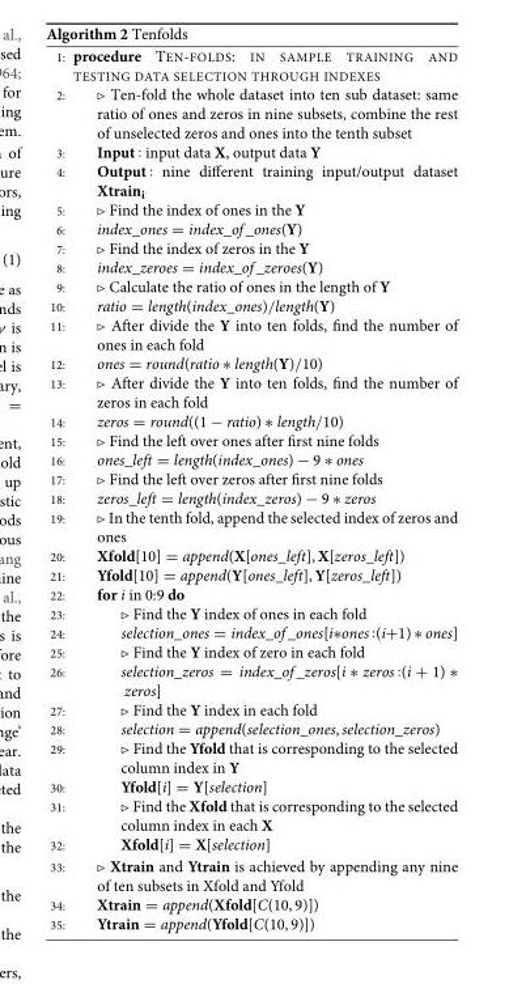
<table><tbody><tr><td>1:</td><td>procedure TEN-FOLDS: IN SAMPLE TRAINING AND TESTING DATA SELECTION THROUGH INDEXES</td></tr><tr><td>2:</td><td>⊲ Ten-fold the whole dataset into ten sub dataset: same ratio of ones and zeros in nine subsets, combine the rest of unselected zeros and ones into the tenth subset</td></tr><tr><td>3:</td><td>Input : input data X, output data Y</td></tr><tr><td>4:</td><td>Output : nine different training input/output dataset Xtrain<sub>i</sub></td></tr><tr><td>5:</td><td>⊲ Find the index of ones in the Y</td></tr><tr><td>6:</td><td>index_ones = index_of _ones(Y)</td></tr><tr><td>7:</td><td>⊲ Find the index of zeros in the Y</td></tr><tr><td>8:</td><td>index_zeroes = index_of _zeroes(Y)</td></tr><tr><td>9:</td><td>⊲ Calculate the ratio of ones in the length of Y</td></tr><tr><td>10:</td><td>ratio = length(index_ones)/length(Y)</td></tr><tr><td>11:</td><td>⊲ After divide the Y into ten folds, find the number of ones in each fold</td></tr><tr><td>12:</td><td>ones = round(ratio ∗ length(Y)/10)</td></tr><tr><td>13:</td><td>⊲ After divide the Y into ten folds, find the number of zeros in each fold</td></tr><tr><td>14:</td><td>zeros = round((1 − ratio) ∗ length/10)</td></tr><tr><td>15:</td><td>⊲ Find the left over ones after first nine folds</td></tr><tr><td>16:</td><td>ones_left = length(index_ones) − 9 ∗ ones</td></tr><tr><td>17:</td><td>⊲ Find the left over zeros after first nine folds</td></tr><tr><td>18:</td><td>zeros_left = length(index_zeros) − 9 ∗ zeros</td></tr><tr><td>19:</td><td>⊲ In the tenth fold, append the selected index of zeros and ones</td></tr><tr><td>20:</td><td>Xfold[10] = append(X[ones_left], X[zeros_left])</td></tr><tr><td>21:</td><td>Yfold[10] = append(Y[ones_left], Y[zeros_left])</td></tr><tr><td>22:</td><td>for i in 0:9 do</td></tr><tr><td>23:</td><td>⊲ Find the Y index of ones in each fold</td></tr><tr><td>24:</td><td>selection_ones = index_of _ones[i∗ones :(i+1) ∗ ones]</td></tr><tr><td>25:</td><td>⊲ Find the Y index of zero in each fold</td></tr><tr><td>26:</td><td>selection_zeros = index_of _zeros[i ∗ zeros :(i + 1) ∗ zeros]</td></tr><tr><td>27:</td><td>⊲ Find the Y index in each fold</td></tr><tr><td>28:</td><td>selection = append(selection_ones, selection_zeros)</td></tr><tr><td>29:</td><td>⊲ Find the Yfold that is corresponding to the selected column index in Y</td></tr><tr><td>30:</td><td>Yfold[i] = Y[selection]</td></tr><tr><td>31:</td><td>⊲ Find the Xfold that is corresponding to the selected column index in each X</td></tr><tr><td>32:</td><td>Xfold[i] = X[selection]</td></tr><tr><td>33:</td><td>⊲ Xtrain and Ytrain is achieved by appending any nine of ten subsets in Xfold and Yfold</td></tr><tr><td>34:</td><td>Xtrain = append(Xfold[C(10, 9)])</td></tr><tr><td>35:</td><td>Ytrain = append(Yfold[C(10, 9)])</td></tr></tbody></table>